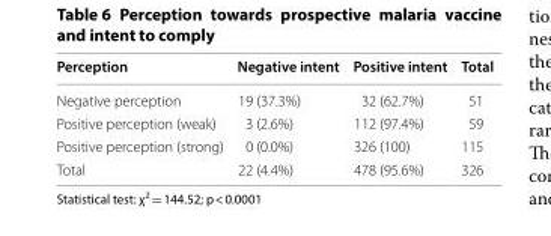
<table><thead><tr><td>Perception</td><td>Negative intent</td><td>Positive intent</td><td>Total</td></tr></thead><tbody><tr><td>Negative perception</td><td>19 (37.3%)</td><td>32 (62.7%)</td><td>51</td></tr><tr><td>Positive perception (weak)</td><td>3 (2.6%)</td><td>112 (97.4%)</td><td>59</td></tr><tr><td>Positive perception (strong)</td><td>0 (0.0%)</td><td>326 (100)</td><td>115</td></tr><tr><td>Total</td><td>22 (4.4%)</td><td>478 (95.6%)</td><td>326</td></tr></tbody></table>